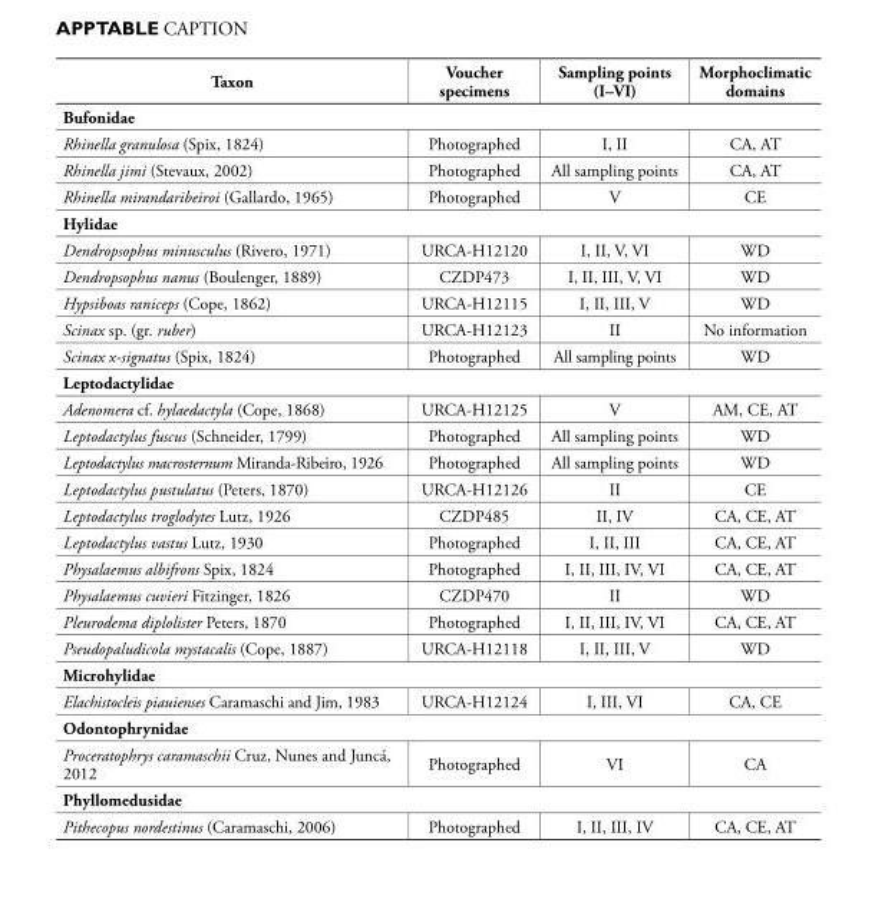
<table><thead><tr><td>Taxon</td><td>Voucher specimens</td><td>Sampling points (I–VI)</td><td>Morphoclimatic domains</td></tr></thead><tbody><tr><td colspan="4">Bufonidae</td></tr><tr><td>Rhinella granulosa (Spix, 1824)</td><td>Photographed</td><td>I, II</td><td>CA, AT</td></tr><tr><td>Rhinella jimi (Stevaux, 2002)</td><td>Photographed</td><td>All sampling points</td><td>CA, AT</td></tr><tr><td>Rhinella mirandaribeiroi (Gallardo, 1965)</td><td>Photographed</td><td>V</td><td>CE</td></tr><tr><td colspan="4">Hylidae</td></tr><tr><td>Dendropsophus minusculus (Rivero, 1971)</td><td>URCA-H12120</td><td>I, II, V, VI</td><td>WD</td></tr><tr><td>Dendropsophus nanus (Boulenger, 1889)</td><td>CZDP473</td><td>I, II, III, V, VI</td><td>WD</td></tr><tr><td>Hypsiboas raniceps (Cope, 1862)</td><td>URCA-H12115</td><td>I, II, III, V</td><td>WD</td></tr><tr><td>Scinax sp. (gr. ruber)</td><td>URCA-H12123</td><td>II</td><td>No information</td></tr><tr><td>Scinax x-signatus (Spix, 1824)</td><td>Photographed</td><td>All sampling points</td><td>WD</td></tr><tr><td colspan="4">Leptodactylidae</td></tr><tr><td>Adenomera cf. hylaedactyla (Cope, 1868)</td><td>URCA-H12125</td><td>V</td><td>AM, CE, AT</td></tr><tr><td>Leptodactylus fuscus (Schneider, 1799)</td><td>Photographed</td><td>All sampling points</td><td>WD</td></tr><tr><td>Leptodactylus macrosternum Miranda-Ribeiro, 1926</td><td>Photographed</td><td>All sampling points</td><td>WD</td></tr><tr><td>Leptodactylus pustulatus (Peters, 1870)</td><td>URCA-H12126</td><td>II</td><td>CE</td></tr><tr><td>Leptodactylus troglodytes Lutz, 1926</td><td>CZDP485</td><td>II, IV</td><td>CA, CE, AT</td></tr><tr><td>Leptodactylus vastus Lutz, 1930</td><td>Photographed</td><td>I, II, III</td><td>CA, CE, AT</td></tr><tr><td>Physalaemus albifrons Spix, 1824</td><td>Photographed</td><td>I, II, III, IV, VI</td><td>CA, CE, AT</td></tr><tr><td>Physalaemus cuvieri Fitzinger, 1826</td><td>CZDP470</td><td>II</td><td>WD</td></tr><tr><td>Pleurodema diplolister Peters, 1870</td><td>Photographed</td><td>I, II, III, IV, VI</td><td>CA, CE, AT</td></tr><tr><td>Pseudopaludicola mystacalis (Cope, 1887)</td><td>URCA-H12118</td><td>I, II, III, V</td><td>WD</td></tr><tr><td colspan="4">Microhylidae</td></tr><tr><td>Elachistocleis piauienses Caramaschi and Jim, 1983</td><td>URCA-H12124</td><td>I, III, VI</td><td>CA, CE</td></tr><tr><td colspan="4">Odontophrynidae</td></tr><tr><td>Proceratophrys caramaschii Cruz, Nunes and Juncá, 2012</td><td>Photographed</td><td>VI</td><td>CA</td></tr><tr><td colspan="4">Phyllomedusidae</td></tr><tr><td>Pithecopus nordestinus (Caramaschi, 2006)</td><td>Photographed</td><td>I, II, III, IV</td><td>CA, CE, AT</td></tr></tbody></table>